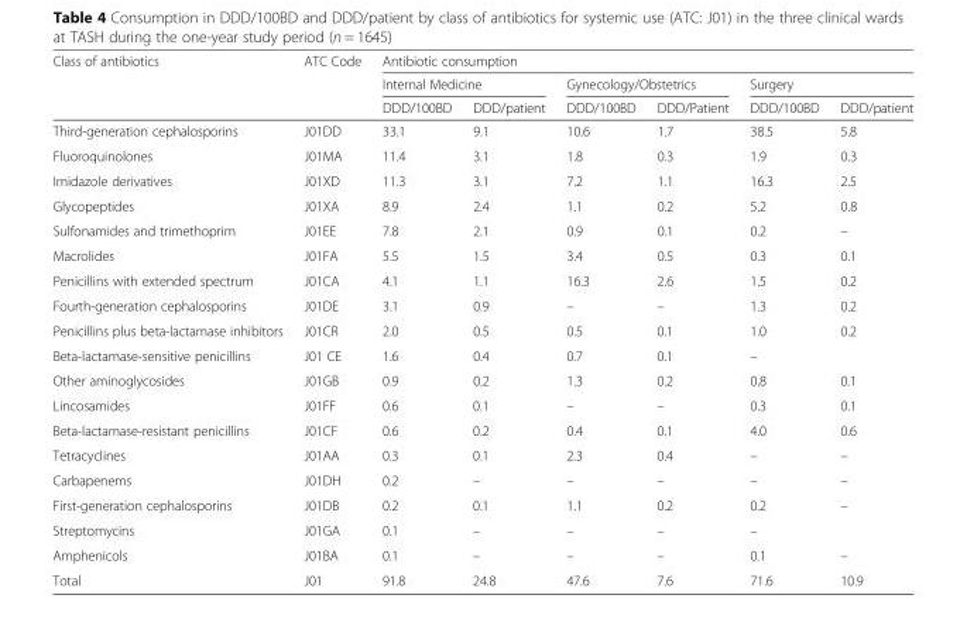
<table><thead><tr><td rowspan="3">Class of antibiotics</td><td rowspan="3">ATC Code</td><td colspan="6">Antibiotic consumption</td></tr><tr><td colspan="2">Internal Medicine</td><td colspan="2">Gynecology/Obstetrics</td><td colspan="2">Surgery</td></tr><tr><td>DDD/100BD</td><td>DDD/patient</td><td>DDD/100BD</td><td>DDD/Patient</td><td>DDD/100BD</td><td>DDD/patient</td></tr></thead><tbody><tr><td>Third-generation cephalosporins</td><td>J01DD</td><td>33.1</td><td>9.1</td><td>10.6</td><td>1.7</td><td>38.5</td><td>5.8</td></tr><tr><td>Fluoroquinolones</td><td>J01MA</td><td>11.4</td><td>3.1</td><td>1.8</td><td>0.3</td><td>1.9</td><td>0.3</td></tr><tr><td>Imidazole derivatives</td><td>J01XD</td><td>11.3</td><td>3.1</td><td>7.2</td><td>1.1</td><td>16.3</td><td>2.5</td></tr><tr><td>Glycopeptides</td><td>J01XA</td><td>8.9</td><td>2.4</td><td>1.1</td><td>0.2</td><td>5.2</td><td>0.8</td></tr><tr><td>Sulfonamides and trimethoprim</td><td>J01EE</td><td>7.8</td><td>2.1</td><td>0.9</td><td>0.1</td><td>0.2</td><td>–</td></tr><tr><td>Macrolides</td><td>J01FA</td><td>5.5</td><td>1.5</td><td>3.4</td><td>0.5</td><td>0.3</td><td>0.1</td></tr><tr><td>Penicillins with extended spectrum</td><td>J01CA</td><td>4.1</td><td>1.1</td><td>16.3</td><td>2.6</td><td>1.5</td><td>0.2</td></tr><tr><td>Fourth-generation cephalosporins</td><td>J01DE</td><td>3.1</td><td>0.9</td><td>–</td><td>–</td><td>1.3</td><td>0.2</td></tr><tr><td>Penicillins plus beta-lactamase inhibitors</td><td>J01CR</td><td>2.0</td><td>0.5</td><td>0.5</td><td>0.1</td><td>1.0</td><td>0.2</td></tr><tr><td>Beta-lactamase-sensitive penicillins</td><td>J01 CE</td><td>1.6</td><td>0.4</td><td>0.7</td><td>0.1</td><td>–</td><td></td></tr><tr><td>Other aminoglycosides</td><td>J01GB</td><td>0.9</td><td>0.2</td><td>1.3</td><td>0.2</td><td>0.8</td><td>0.1</td></tr><tr><td>Lincosamides</td><td>J01FF</td><td>0.6</td><td>0.1</td><td>–</td><td>–</td><td>0.3</td><td>0.1</td></tr><tr><td>Beta-lactamase-resistant penicillins</td><td>J01CF</td><td>0.6</td><td>0.2</td><td>0.4</td><td>0.1</td><td>4.0</td><td>0.6</td></tr><tr><td>Tetracyclines</td><td>J01AA</td><td>0.3</td><td>0.1</td><td>2.3</td><td>0.4</td><td>–</td><td>–</td></tr><tr><td>Carbapenems</td><td>J01DH</td><td>0.2</td><td>–</td><td>–</td><td>–</td><td>–</td><td>–</td></tr><tr><td>First-generation cephalosporins</td><td>J01DB</td><td>0.2</td><td>0.1</td><td>1.1</td><td>0.2</td><td>0.2</td><td>–</td></tr><tr><td>Streptomycins</td><td>J01GA</td><td>0.1</td><td>–</td><td>–</td><td>–</td><td>–</td><td></td></tr><tr><td>Amphenicols</td><td>J01BA</td><td>0.1</td><td>–</td><td>–</td><td>–</td><td>0.1</td><td>–</td></tr><tr><td>Total</td><td>J01</td><td>91.8</td><td>24.8</td><td>47.6</td><td>7.6</td><td>71.6</td><td>10.9</td></tr></tbody></table>